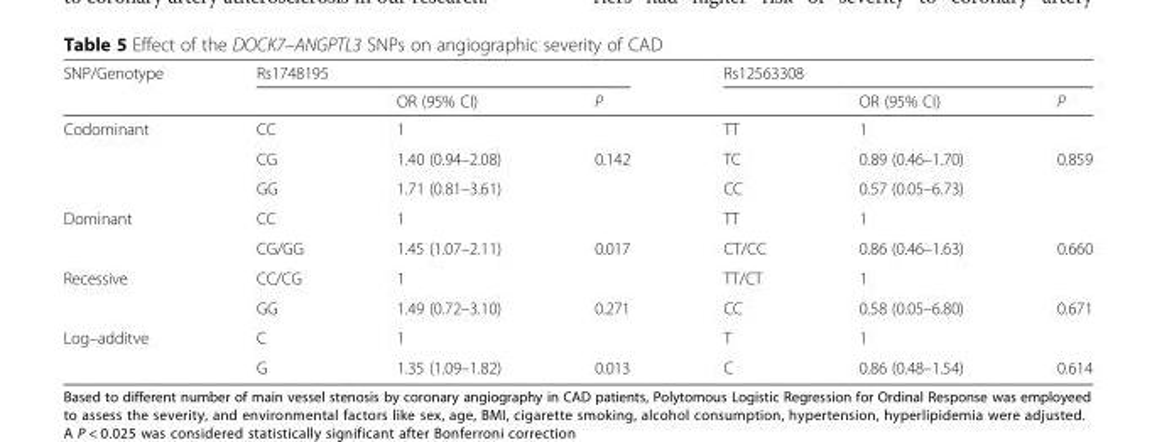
<table><thead><tr><td rowspan="2">SNP/Genotype</td><td colspan="3">Rs1748195</td><td colspan="3">Rs12563308</td></tr><tr><td></td><td>OR (95% CI)</td><td>P</td><td></td><td>OR (95% CI)</td><td>P</td></tr></thead><tbody><tr><td rowspan="3">Codominant</td><td>CC</td><td>1</td><td></td><td>TT</td><td>1</td><td></td></tr><tr><td>CG</td><td>1.40 (0.94–2.08)</td><td>0.142</td><td>TC</td><td>0.89 (0.46–1.70)</td><td>0.859</td></tr><tr><td>GG</td><td>1.71 (0.81–3.61)</td><td></td><td>CC</td><td>0.57 (0.05–6.73)</td><td></td></tr><tr><td rowspan="2">Dominant</td><td>CC</td><td>1</td><td></td><td>TT</td><td>1</td><td></td></tr><tr><td>CG/GG</td><td>1.45 (1.07–2.11)</td><td>0.017</td><td>CT/CC</td><td>0.86 (0.46–1.63)</td><td>0.660</td></tr><tr><td rowspan="2">Recessive</td><td>CC/CG</td><td>1</td><td></td><td>TT/CT</td><td>1</td><td></td></tr><tr><td>GG</td><td>1.49 (0.72–3.10)</td><td>0.271</td><td>CC</td><td>0.58 (0.05–6.80)</td><td>0.671</td></tr><tr><td rowspan="2">Log–additve</td><td>C</td><td>1</td><td></td><td>T</td><td>1</td><td></td></tr><tr><td>G</td><td>1.35 (1.09–1.82)</td><td>0.013</td><td>C</td><td>0.86 (0.48–1.54)</td><td>0.614</td></tr></tbody></table>